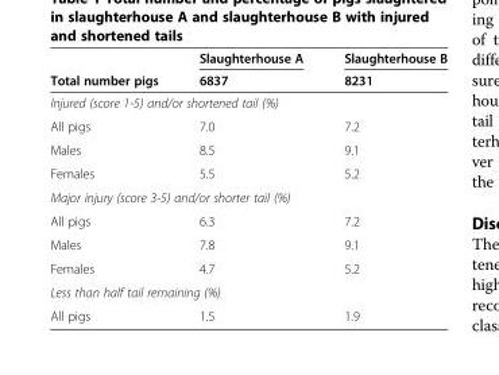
<table><thead><tr><td rowspan="2">Total number pigs</td><td rowspan="2">Slaughterhouse A 6837</td><td rowspan="2">Slaughterhouse B 8231</td></tr><tr></tr></thead><tbody><tr><td colspan="3">Injured (score 1-5) and/or shortened tail (%)</td></tr><tr><td>All pigs</td><td>7.0</td><td>7.2</td></tr><tr><td>Males</td><td>8.5</td><td>9.1</td></tr><tr><td>Females</td><td>5.5</td><td>5.2</td></tr><tr><td colspan="3">Major injury (score 3-5) and/or shorter tail (%)</td></tr><tr><td>All pigs</td><td>6.3</td><td>7.2</td></tr><tr><td>Males</td><td>7.8</td><td>9.1</td></tr><tr><td>Females</td><td>4.7</td><td>5.2</td></tr><tr><td colspan="3">Less than half tail remaining (%)</td></tr><tr><td>All pigs</td><td>1.5</td><td>1.9</td></tr></tbody></table>